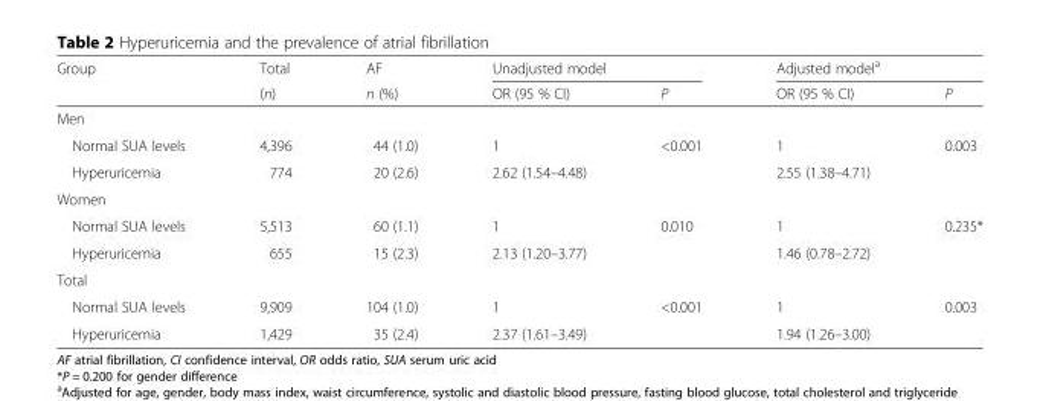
<table><thead><tr><td rowspan="2">Group</td><td rowspan="2">Total (n)</td><td rowspan="2">AF n (%)</td><td colspan="2">Unadjusted model</td><td colspan="2">Adjusted model<sup>a</sup></td></tr><tr><td>OR (95 % CI)</td><td>P</td><td>OR (95 % CI)</td><td>P</td></tr></thead><tbody><tr><td colspan="7">Men</td></tr><tr><td>Normal SUA levels</td><td>4,396</td><td>44 (1.0)</td><td>1</td><td rowspan="2">&lt;0.001</td><td>1</td><td rowspan="2">0.003</td></tr><tr><td>Hyperuricemia</td><td>774</td><td>20 (2.6)</td><td>2.62 (1.54–4.48)</td><td>2.55 (1.38–4.71)</td></tr><tr><td colspan="7">Women</td></tr><tr><td>Normal SUA levels</td><td>5,513</td><td>60 (1.1)</td><td>1</td><td rowspan="2">0.010</td><td>1</td><td rowspan="2">0.235*</td></tr><tr><td>Hyperuricemia</td><td>655</td><td>15 (2.3)</td><td>2.13 (1.20–3.77)</td><td>1.46 (0.78–2.72)</td></tr><tr><td colspan="7">Total</td></tr><tr><td>Normal SUA levels</td><td>9,909</td><td>104 (1.0)</td><td>1</td><td rowspan="2">&lt;0.001</td><td>1</td><td rowspan="2">0.003</td></tr><tr><td>Hyperuricemia</td><td>1,429</td><td>35 (2.4)</td><td>2.37 (1.61–3.49)</td><td>1.94 (1.26–3.00)</td></tr></tbody></table>